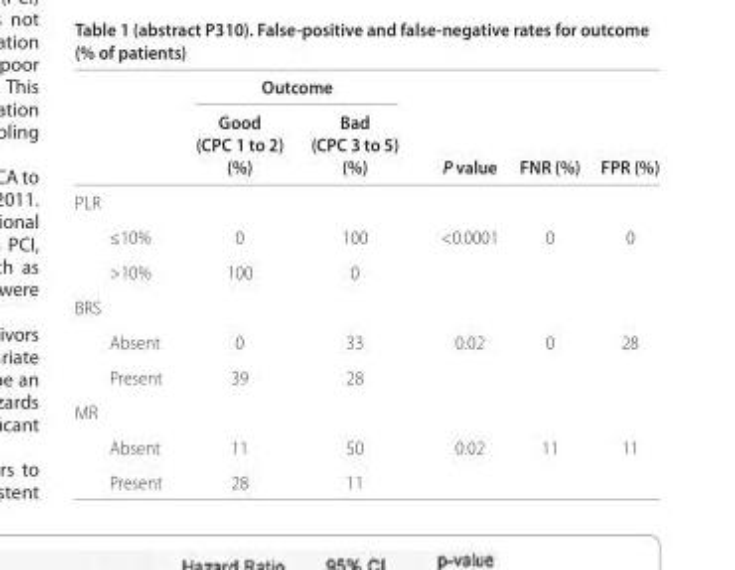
<table><thead><tr><td rowspan="2"></td><td rowspan="2"></td><td colspan="2">Outcome</td><td rowspan="2">P value</td><td rowspan="2">FNR (%)</td><td rowspan="2">FPR (%)</td></tr><tr><td>Good (CPC 1 to 2) (%)</td><td>Bad (CPC 3 to 5) (%)</td></tr></thead><tbody><tr><td colspan="7">PLR</td></tr><tr><td></td><td>≤10%</td><td>0</td><td>100</td><td>&lt;0.0001</td><td>0</td><td>0</td></tr><tr><td></td><td>&gt;10%</td><td>100</td><td>0</td><td></td><td></td><td></td></tr><tr><td colspan="7">BRS</td></tr><tr><td></td><td>Absent</td><td>0</td><td>33</td><td>0.02</td><td>0</td><td>28</td></tr><tr><td></td><td>Present</td><td>39</td><td>28</td><td></td><td></td><td></td></tr><tr><td colspan="7">MR</td></tr><tr><td></td><td>Absent</td><td>11</td><td>50</td><td>0.02</td><td>11</td><td>11</td></tr><tr><td></td><td>Present</td><td>28</td><td>11</td><td></td><td></td><td></td></tr></tbody></table>